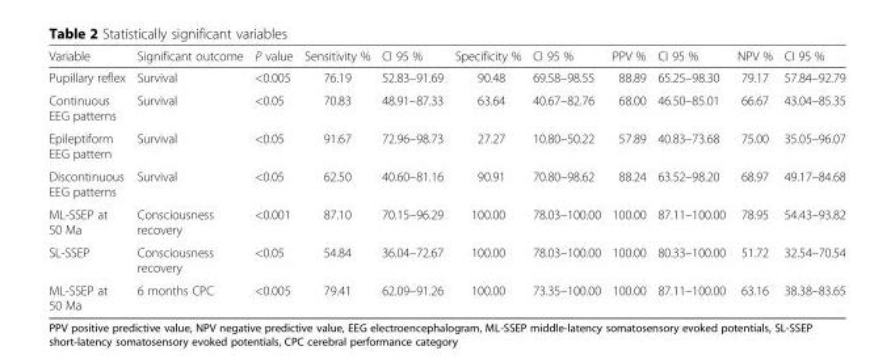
<table><thead><tr><td>Variable</td><td>Significant outcome</td><td>P value</td><td>Sensitivity %</td><td>CI 95 %</td><td>Specificity %</td><td>CI 95 %</td><td>PPV %</td><td>CI 95 %</td><td>NPV %</td><td>CI 95 %</td></tr></thead><tbody><tr><td>Pupillary reflex</td><td>Survival</td><td>&lt;0.005</td><td>76.19</td><td>52.83–91.69</td><td>90.48</td><td>69.58–98.55</td><td>88.89</td><td>65.25–98.30</td><td>79.17</td><td>57.84–92.79</td></tr><tr><td>Continuous EEG patterns</td><td>Survival</td><td>&lt;0.05</td><td>70.83</td><td>48.91–87.33</td><td>63.64</td><td>40.67–82.76</td><td>68.00</td><td>46.50–85.01</td><td>66.67</td><td>43.04–85.35</td></tr><tr><td>Epileptiform EEG pattern</td><td>Survival</td><td>&lt;0.05</td><td>91.67</td><td>72.96–98.73</td><td>27.27</td><td>10.80–50.22</td><td>57.89</td><td>40.83–73.68</td><td>75.00</td><td>35.05–96.07</td></tr><tr><td>Discontinuous EEG patterns</td><td>Survival</td><td>&lt;0.05</td><td>62.50</td><td>40.60–81.16</td><td>90.91</td><td>70.80–98.62</td><td>88.24</td><td>63.52–98.20</td><td>68.97</td><td>49.17–84.68</td></tr><tr><td>ML-SSEP at 50 Ma</td><td>Consciousness recovery</td><td>&lt;0.001</td><td>87.10</td><td>70.15–96.29</td><td>100.00</td><td>78.03–100.00</td><td>100.00</td><td>87.11–100.00</td><td>78.95</td><td>54.43–93.82</td></tr><tr><td>SL-SSEP</td><td>Consciousness recovery</td><td>&lt;0.05</td><td>54.84</td><td>36.04–72.67</td><td>100.00</td><td>78.03–100.00</td><td>100.00</td><td>80.33–100.00</td><td>51.72</td><td>32.54–70.54</td></tr><tr><td>ML-SSEP at 50 Ma</td><td>6 months CPC</td><td>&lt;0.005</td><td>79.41</td><td>62.09–91.26</td><td>100.00</td><td>73.35–100.00</td><td>100.00</td><td>87.11–100.00</td><td>63.16</td><td>38.38–83.65</td></tr></tbody></table>